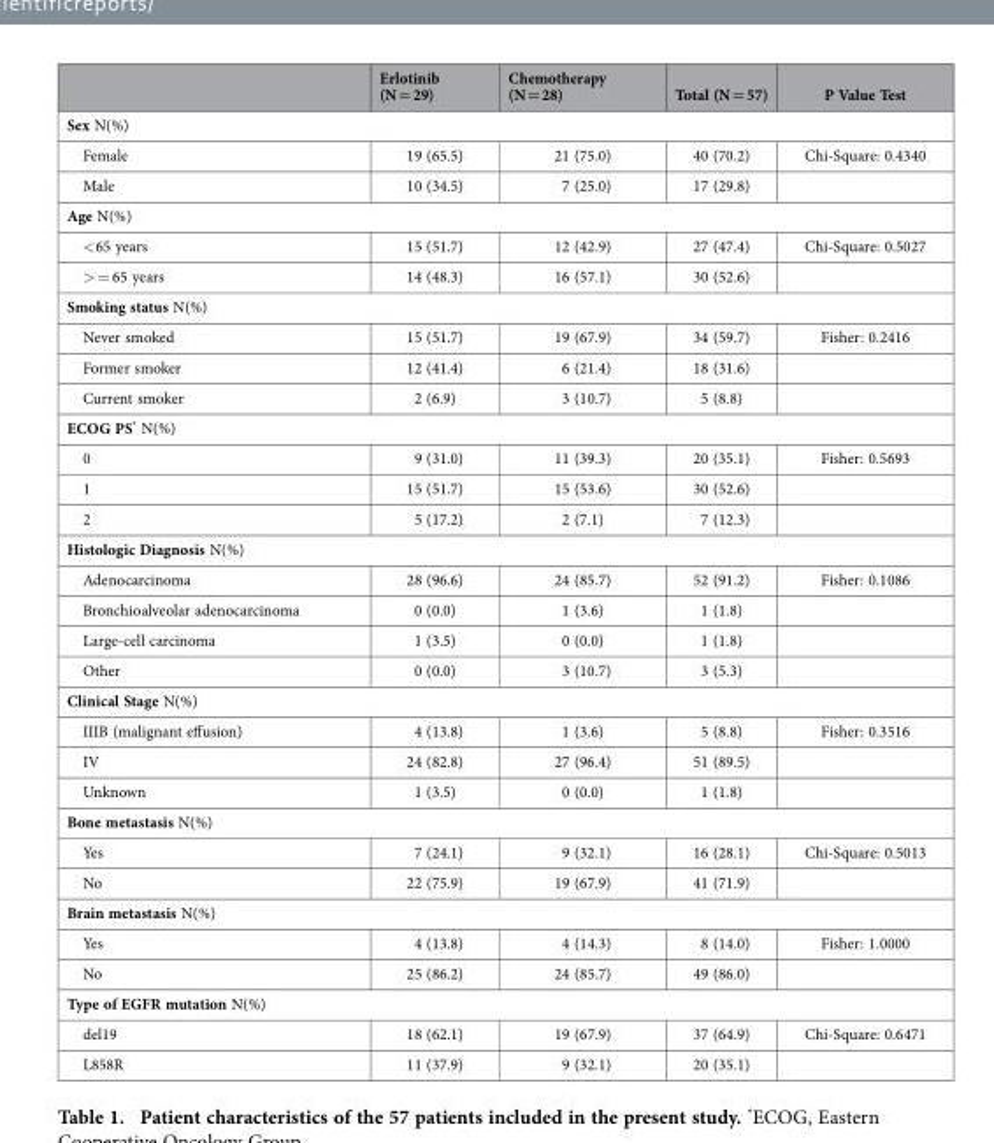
<table><thead><tr><td></td><td>Erlotinib (N = 29)</td><td>Chemotherapy (N = 28)</td><td>Total (N = 57)</td><td>P Value Test</td></tr></thead><tbody><tr><td colspan="5">Sex N(%)</td></tr><tr><td>Female</td><td>19 (65.5)</td><td>21 (75.0)</td><td>40 (70.2)</td><td>Chi-Square: 0.4340</td></tr><tr><td>Male</td><td>10 (34.5)</td><td>7 (25.0)</td><td>17 (29.8)</td><td></td></tr><tr><td colspan="5">Age N(%)</td></tr><tr><td>&lt; 65 years</td><td>15 (51.7)</td><td>12 (42.9)</td><td>27 (47.4)</td><td>Chi-Square: 0.5027</td></tr><tr><td>&gt; = 65 years</td><td>14 (48.3)</td><td>16 (57.1)</td><td>30 (52.6)</td><td></td></tr><tr><td colspan="5">Smoking status N(%)</td></tr><tr><td>Never smoked</td><td>15 (51.7)</td><td>19 (67.9)</td><td>34 (59.7)</td><td>Fisher: 0.2416</td></tr><tr><td>Former smoker</td><td>12 (41.4)</td><td>6 (21.4)</td><td>18 (31.6)</td><td></td></tr><tr><td>Current smoker</td><td>2 (6.9)</td><td>3 (10.7)</td><td>5 (8.8)</td><td></td></tr><tr><td colspan="5">ECOG PS* N(%)</td></tr><tr><td>0</td><td>9 (31.0)</td><td>11 (39.3)</td><td>20 (35.1)</td><td>Fisher: 0.5693</td></tr><tr><td>1</td><td>15 (51.7)</td><td>15 (53.6)</td><td>30 (52.6)</td><td></td></tr><tr><td>2</td><td>5 (17.2)</td><td>2 (7.1)</td><td>7 (12.3)</td><td></td></tr><tr><td colspan="5">Histologic Diagnosis N(%)</td></tr><tr><td>Adenocarcinoma</td><td>28 (96.6)</td><td>24 (85.7)</td><td>52 (91.2)</td><td>Fisher: 0.1086</td></tr><tr><td>Bronchioalveolar adenocarcinoma</td><td>0 (0.0)</td><td>1 (3.6)</td><td>1 (1.8)</td><td></td></tr><tr><td>Large-cell carcinoma</td><td>1 (3.5)</td><td>0 (0.0)</td><td>1 (1.8)</td><td></td></tr><tr><td>Other</td><td>0 (0.0)</td><td>3 (10.7)</td><td>3 (5.3)</td><td></td></tr><tr><td colspan="5">Clinical Stage N(%)</td></tr><tr><td>IIIB (malignant effusion)</td><td>4 (13.8)</td><td>1 (3.6)</td><td>5 (8.8)</td><td>Fisher: 0.3516</td></tr><tr><td>IV</td><td>24 (82.8)</td><td>27 (96.4)</td><td>51 (89.5)</td><td></td></tr><tr><td>Unknown</td><td>1 (3.5)</td><td>0 (0.0)</td><td>1 (1.8)</td><td></td></tr><tr><td colspan="5">Bone metastasis N(%)</td></tr><tr><td>Yes</td><td>7 (24.1)</td><td>9 (32.1)</td><td>16 (28.1)</td><td>Chi-Square: 0.5013</td></tr><tr><td>No</td><td>22 (75.9)</td><td>19 (67.9)</td><td>41 (71.9)</td><td></td></tr><tr><td colspan="5">Brain metastasis N(%)</td></tr><tr><td>Yes</td><td>4 (13.8)</td><td>4 (14.3)</td><td>8 (14.0)</td><td>Fisher: 1.0000</td></tr><tr><td>No</td><td>25 (86.2)</td><td>24 (85.7)</td><td>49 (86.0)</td><td></td></tr><tr><td colspan="5">Type of EGFR mutation N(%)</td></tr><tr><td>del19</td><td>18 (62.1)</td><td>19 (67.9)</td><td>37 (64.9)</td><td>Chi-Square: 0.6471</td></tr><tr><td>L858R</td><td>11 (37.9)</td><td>9 (32.1)</td><td>20 (35.1)</td><td></td></tr></tbody></table>